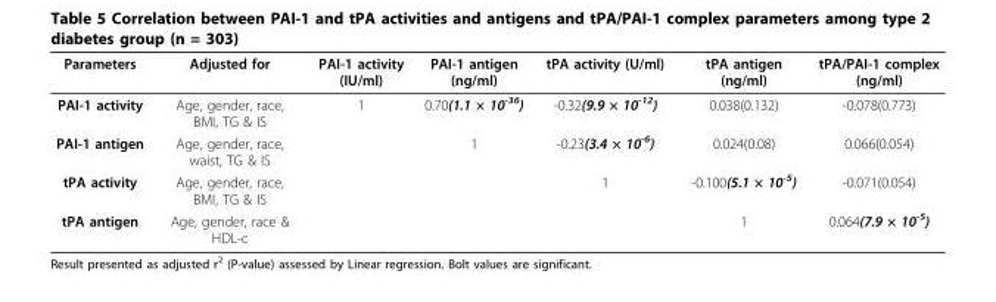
<table><thead><tr><td>Parameters</td><td>Adjusted for</td><td>PAI-1 activity (IU/ml)</td><td>PAI-1 antigen (ng/ml)</td><td>tPA activity (U/ml)</td><td>tPA antigen (ng/ml)</td><td>tPA/PAI-1 complex (ng/ml)</td></tr></thead><tbody><tr><td>PAI-1 activity</td><td>Age, gender, race, BMI, TG &amp; IS</td><td>1</td><td>0.70(1.1 × 10<sup>-36</sup>)</td><td>-0.32(9.9 × 10<sup>-12</sup>)</td><td>0.038(0.132)</td><td>-0.078(0.773)</td></tr><tr><td>PAI-1 antigen</td><td>Age, gender, race, waist, TG &amp; IS</td><td></td><td>1</td><td>-0.23(3.4 × 10<sup>-6</sup>)</td><td>0.024(0.08)</td><td>0.066(0.054)</td></tr><tr><td>tPA activity</td><td>Age, gender, race, BMI, TG &amp; IS</td><td></td><td></td><td>1</td><td>-0.100(5.1 × 10<sup>-5</sup>)</td><td>-0.071(0.054)</td></tr><tr><td>tPA antigen</td><td>Age, gender, race &amp; HDL-c</td><td></td><td></td><td></td><td>1</td><td>0.064(7.9 × 10<sup>-5</sup>)</td></tr></tbody></table>